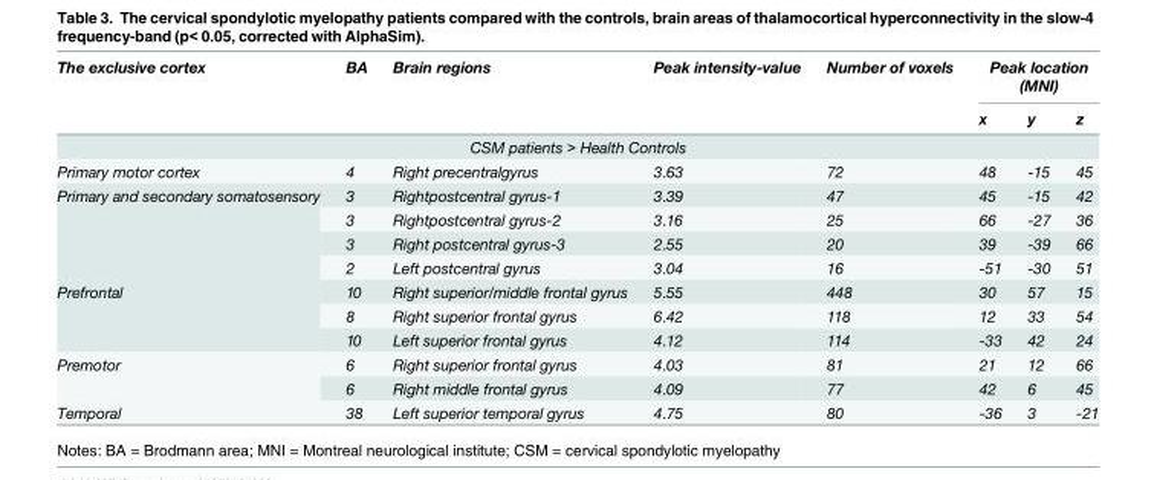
<table><thead><tr><td rowspan="2">The exclusive cortex</td><td rowspan="2">BA</td><td rowspan="2">Brain regions</td><td rowspan="2">Peak intensity-value</td><td rowspan="2">Number of voxels</td><td colspan="3">Peak location (MNI)</td></tr><tr><td>x</td><td>y</td><td>z</td></tr></thead><tbody><tr><td colspan="8">CSM patients &gt; Health Controls</td></tr><tr><td>Primary motor cortex</td><td>4</td><td>Right precentralgyrus</td><td>3.63</td><td>72</td><td>48</td><td>-15</td><td>45</td></tr><tr><td rowspan="4">Primary and secondary somatosensory</td><td>3</td><td>Rightpostcentral gyrus-1</td><td>3.39</td><td>47</td><td>45</td><td>-15</td><td>42</td></tr><tr><td>3</td><td>Rightpostcentral gyrus-2</td><td>3.16</td><td>25</td><td>66</td><td>-27</td><td>36</td></tr><tr><td>3</td><td>Right postcentral gyrus-3</td><td>2.55</td><td>20</td><td>39</td><td>-39</td><td>66</td></tr><tr><td>2</td><td>Left postcentral gyrus</td><td>3.04</td><td>16</td><td>-51</td><td>-30</td><td>51</td></tr><tr><td rowspan="3">Prefrontal</td><td>10</td><td>Right superior/middle frontal gyrus</td><td>5.55</td><td>448</td><td>30</td><td>57</td><td>15</td></tr><tr><td>8</td><td>Right superior frontal gyrus</td><td>6.42</td><td>118</td><td>12</td><td>33</td><td>54</td></tr><tr><td>10</td><td>Left superior frontal gyrus</td><td>4.12</td><td>114</td><td>-33</td><td>42</td><td>24</td></tr><tr><td rowspan="2">Premotor</td><td>6</td><td>Right superior frontal gyrus</td><td>4.03</td><td>81</td><td>21</td><td>12</td><td>66</td></tr><tr><td>6</td><td>Right middle frontal gyrus</td><td>4.09</td><td>77</td><td>42</td><td>6</td><td>45</td></tr><tr><td>Temporal</td><td>38</td><td>Left superior temporal gyrus</td><td>4.75</td><td>80</td><td>-36</td><td>3</td><td>-21</td></tr></tbody></table>